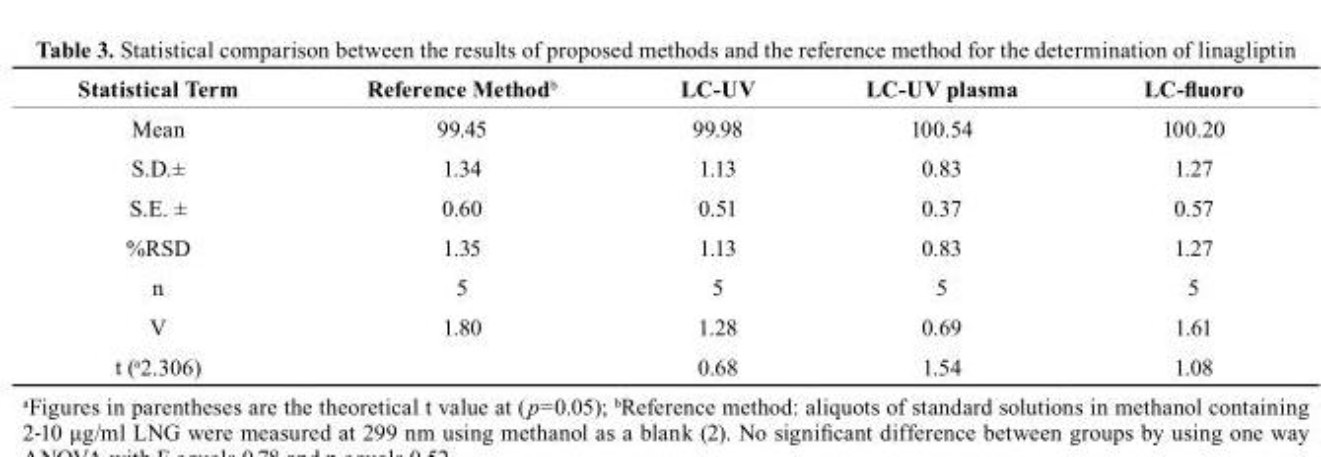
<table><thead><tr><td>statistical term</td><td>reference Method<sup>b</sup></td><td>Lc-UV</td><td>Lc-UV plasma</td><td>LC-fluoro</td></tr></thead><tbody><tr><td>Mean</td><td>99.45</td><td>99.98</td><td>100.54</td><td>100.20</td></tr><tr><td>S.D.±</td><td>1.34</td><td>1.13</td><td>0.83</td><td>1.27</td></tr><tr><td>S.E. ±</td><td>0.60</td><td>0.51</td><td>0.37</td><td>0.57</td></tr><tr><td>%RSD</td><td>1.35</td><td>1.13</td><td>0.83</td><td>1.27</td></tr><tr><td>n</td><td>5</td><td>5</td><td>5</td><td>5</td></tr><tr><td>V</td><td>1.80</td><td>1.28</td><td>0.69</td><td>1.61</td></tr><tr><td>t (a2.306)</td><td></td><td>0.68</td><td>1.54</td><td>1.08</td></tr></tbody></table>